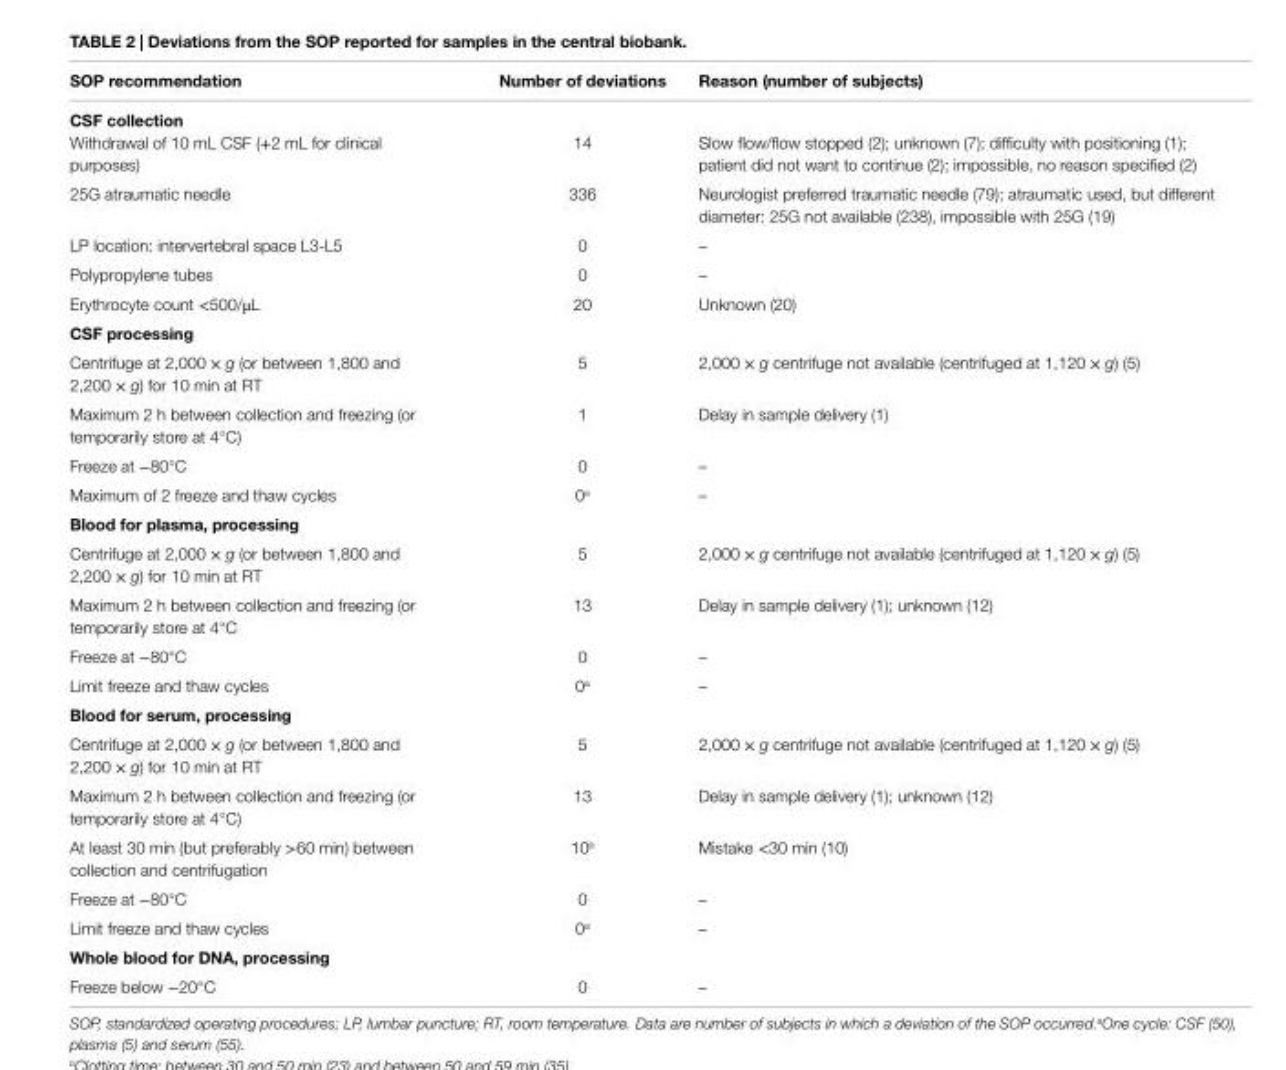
<table><thead><tr><td>sOP recommendation</td><td>number of deviations</td><td>reason (number of subjects)</td></tr></thead><tbody><tr><td colspan="3">csF collection</td></tr><tr><td>Withdrawal of 10 mL CSF (+2 mL for clinical purposes)</td><td>14</td><td>Slow flow/flow stopped (2); unknown (7); difficulty with positioning (1); patient did not want to continue (2); impossible, no reason specified (2)</td></tr><tr><td>25G atraumatic needle</td><td>336</td><td>Neurologist preferred traumatic needle (79); atraumatic used, but different diameter: 25G not available (238), impossible with 25G (19)</td></tr><tr><td>LP location: intervertebral space L3-L5</td><td>0</td><td>–</td></tr><tr><td>Polypropylene tubes</td><td>0</td><td>–</td></tr><tr><td>Erythrocyte count &lt;500/μL</td><td>20</td><td>Unknown (20)</td></tr><tr><td colspan="3">csF processing</td></tr><tr><td>Centrifuge at 2,000 × g (or between 1,800 and 2,200 × g) for 10 min at RT</td><td>5</td><td>2,000 × g centrifuge not available (centrifuged at 1,120 × g) (5)</td></tr><tr><td>Maximum 2 h between collection and freezing (or temporarily store at 4°C)</td><td>1</td><td>Delay in sample delivery (1)</td></tr><tr><td>Freeze at −80°C</td><td>0</td><td>–</td></tr><tr><td>Maximum of 2 freeze and thaw cycles</td><td>0<sup>a</sup></td><td>–</td></tr><tr><td colspan="3">Blood for plasma, processing</td></tr><tr><td>Centrifuge at 2,000 × g (or between 1,800 and 2,200 × g) for 10 min at RT</td><td>5</td><td>2,000 × g centrifuge not available (centrifuged at 1,120 × g) (5)</td></tr><tr><td>Maximum 2 h between collection and freezing (or temporarily store at 4°C</td><td>13</td><td>Delay in sample delivery (1); unknown (12)</td></tr><tr><td>Freeze at −80°C</td><td>0</td><td>–</td></tr><tr><td>Limit freeze and thaw cycles</td><td>0<sup>a</sup></td><td>–</td></tr><tr><td colspan="3">Blood for serum, processing</td></tr><tr><td>Centrifuge at 2,000 × g (or between 1,800 and 2,200 × g) for 10 min at RT</td><td>5</td><td>2,000 × g centrifuge not available (centrifuged at 1,120 × g) (5)</td></tr><tr><td>Maximum 2 h between collection and freezing (or temporarily store at 4°C)</td><td>13</td><td>Delay in sample delivery (1); unknown (12)</td></tr><tr><td>At least 30 min (but preferably &gt;60 min) between collection and centrifugation</td><td>10<sup>b</sup></td><td>Mistake &lt;30 min (10)</td></tr><tr><td>Freeze at −80°C</td><td>0</td><td>–</td></tr><tr><td>Limit freeze and thaw cycles</td><td>0<sup>a</sup></td><td>–</td></tr><tr><td colspan="3">Whole blood for Dna, processing</td></tr><tr><td>Freeze below −20°C</td><td>0</td><td>–</td></tr></tbody></table>